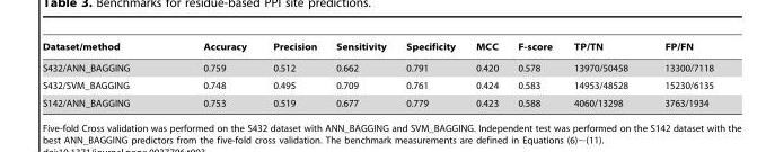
<table><thead><tr><td>Dataset/method</td><td>Accuracy</td><td>Precision</td><td>Sensitivity</td><td>Specificity</td><td>MCC</td><td>F-score</td><td>TP/TN</td><td>FP/FN</td></tr></thead><tbody><tr><td>S432/ANN_BAGGING</td><td>0.759</td><td>0.512</td><td>0.662</td><td>0.791</td><td>0.420</td><td>0.578</td><td>13970/50458</td><td>13300/7118</td></tr><tr><td>S432/SVM_BAGGING</td><td>0.748</td><td>0.495</td><td>0.709</td><td>0.761</td><td>0.424</td><td>0.583</td><td>14953/48528</td><td>15230/6135</td></tr><tr><td>S142/ANN_BAGGING</td><td>0.753</td><td>0.519</td><td>0.677</td><td>0.779</td><td>0.423</td><td>0.588</td><td>4060/13298</td><td>3763/1934</td></tr></tbody></table>